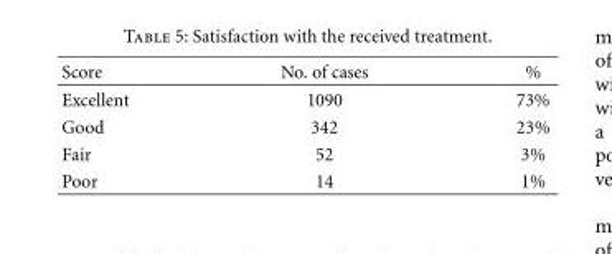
<table><thead><tr><td>Score</td><td>No. of cases</td><td>%</td></tr></thead><tbody><tr><td>Excellent</td><td>1090</td><td>73%</td></tr><tr><td>Good</td><td>342</td><td>23%</td></tr><tr><td>Fair</td><td>52</td><td>3%</td></tr><tr><td>Poor</td><td>14</td><td>1%</td></tr></tbody></table>